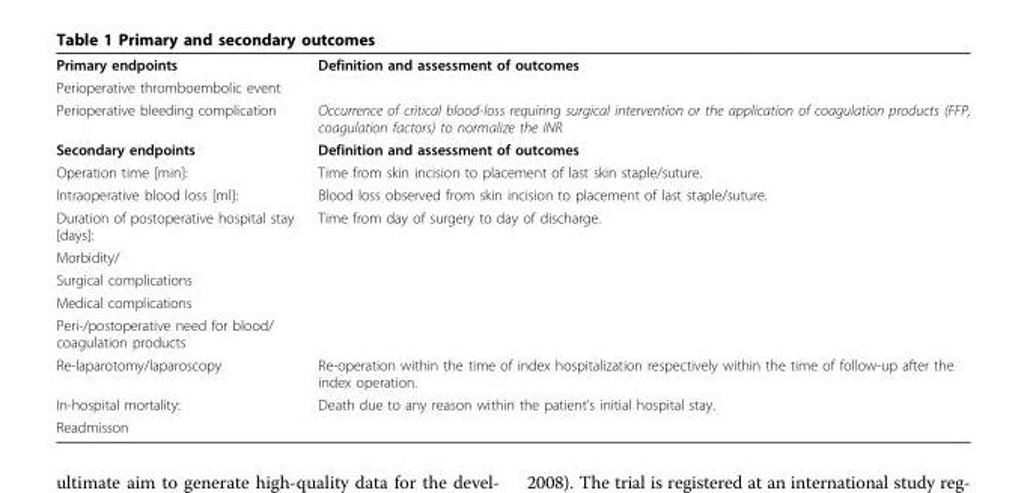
<table><tbody><tr><td>Primary endpoints</td><td>Definition and assessment of outcomes</td></tr><tr><td colspan="2">Perioperative thromboembolic event</td></tr><tr><td>Perioperative bleeding complication</td><td>Occurrence of critical blood-loss requiring surgical intervention or the application of coagulation products (FFP, coagulation factors) to normalize the INR</td></tr><tr><td>Secondary endpoints</td><td>Definition and assessment of outcomes</td></tr><tr><td>Operation time [min]:</td><td>Time from skin incision to placement of last skin staple/suture.</td></tr><tr><td>Intraoperative blood loss [ml]:</td><td>Blood loss observed from skin incision to placement of last staple/suture.</td></tr><tr><td>Duration of postoperative hospital stay [days]:</td><td>Time from day of surgery to day of discharge.</td></tr><tr><td colspan="2">Morbidity/</td></tr><tr><td colspan="2">Surgical complications</td></tr><tr><td colspan="2">Medical complications</td></tr><tr><td colspan="2">Peri-/postoperative need for blood/ coagulation products</td></tr><tr><td>Re-laparotomy/laparoscopy</td><td>Re-operation within the time of index hospitalization respectively within the time of follow-up after the index operation.</td></tr><tr><td>In-hospital mortality:</td><td>Death due to any reason within the patient’s initial hospital stay.</td></tr><tr><td>Readmisson</td><td></td></tr></tbody></table>